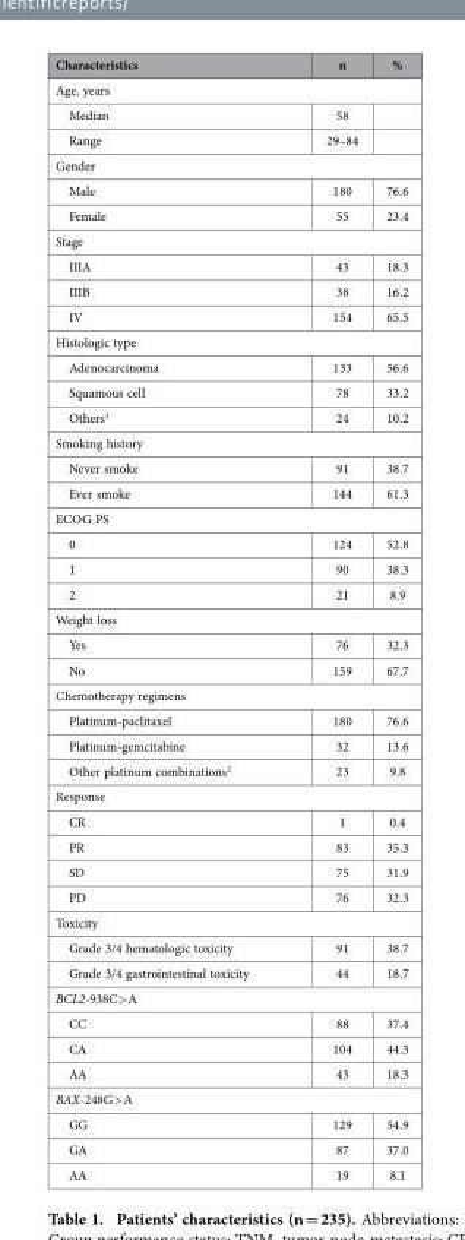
<table><thead><tr><td>Characteristics</td><td>n</td><td>%</td></tr></thead><tbody><tr><td colspan="3">Age, years</td></tr><tr><td>Median</td><td>58</td><td></td></tr><tr><td>Range</td><td>29–84</td><td></td></tr><tr><td colspan="3">Gender</td></tr><tr><td>Male</td><td>180</td><td>76.6</td></tr><tr><td>Female</td><td>55</td><td>23.4</td></tr><tr><td colspan="3">Stage</td></tr><tr><td>IIIA</td><td>43</td><td>18.3</td></tr><tr><td>IIIB</td><td>38</td><td>16.2</td></tr><tr><td>IV</td><td>154</td><td>65.5</td></tr><tr><td colspan="3">Histologic type</td></tr><tr><td>Adenocarcinoma</td><td>133</td><td>56.6</td></tr><tr><td>Squamous cell</td><td>78</td><td>33.2</td></tr><tr><td>Others<sup>1</sup></td><td>24</td><td>10.2</td></tr><tr><td colspan="3">Smoking history</td></tr><tr><td>Never smoke</td><td>91</td><td>38.7</td></tr><tr><td>Ever smoke</td><td>144</td><td>61.3</td></tr><tr><td colspan="3">ECOG PS</td></tr><tr><td>0</td><td>124</td><td>52.8</td></tr><tr><td>1</td><td>90</td><td>38.3</td></tr><tr><td>2</td><td>21</td><td>8.9</td></tr><tr><td colspan="3">Weight loss</td></tr><tr><td>Yes</td><td>76</td><td>32.3</td></tr><tr><td>No</td><td>159</td><td>67.7</td></tr><tr><td colspan="3">Chemotherapy regimens</td></tr><tr><td>Platinum-paclitaxel</td><td>180</td><td>76.6</td></tr><tr><td>Platinum-gemcitabine</td><td>32</td><td>13.6</td></tr><tr><td>Other platinum combinations<sup>2</sup></td><td>23</td><td>9.8</td></tr><tr><td colspan="3">Response</td></tr><tr><td>CR</td><td>1</td><td>0.4</td></tr><tr><td>PR</td><td>83</td><td>35.3</td></tr><tr><td>SD</td><td>75</td><td>31.9</td></tr><tr><td>PD</td><td>76</td><td>32.3</td></tr><tr><td colspan="3">Toxicity</td></tr><tr><td>Grade 3/4 hematologic toxicity</td><td>91</td><td>38.7</td></tr><tr><td>Grade 3/4 gastrointestinal toxicity</td><td>44</td><td>18.7</td></tr><tr><td colspan="3">BCL2-938C&gt; A</td></tr><tr><td>CC</td><td>88</td><td>37.4</td></tr><tr><td>CA</td><td>104</td><td>44.3</td></tr><tr><td>AA</td><td>43</td><td>18.3</td></tr><tr><td colspan="3">BAX-248G&gt; A</td></tr><tr><td>GG</td><td>129</td><td>54.9</td></tr><tr><td>GA</td><td>87</td><td>37.0</td></tr><tr><td>AA</td><td>19</td><td>8.1</td></tr></tbody></table>